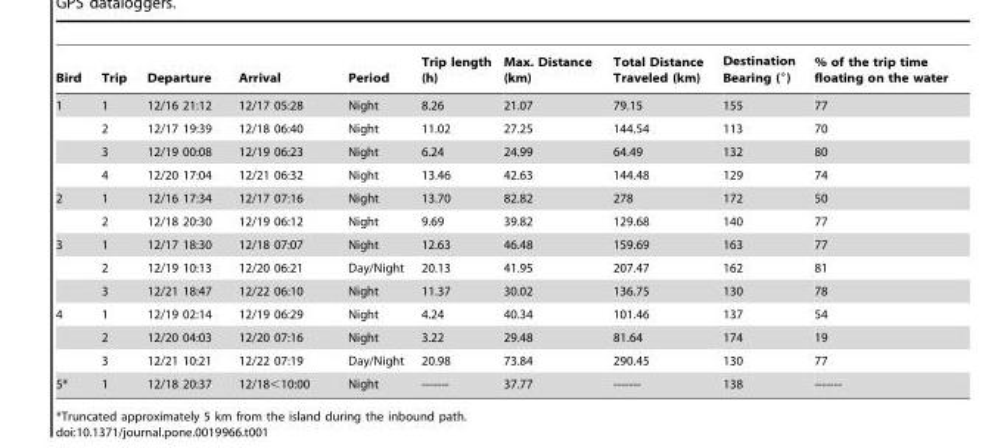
<table><thead><tr><td>Bird</td><td>Trip</td><td>Departure</td><td>Arrival</td><td>Period</td><td>Trip length (h)</td><td>Max. Distance (km)</td><td>Total Distance Traveled (km)</td><td>Destination Bearing (°)</td><td>% of the trip time floating on the water</td></tr></thead><tbody><tr><td rowspan="4">1</td><td>1</td><td>12/16 21:12</td><td>12/17 05:28</td><td>Night</td><td>8.26</td><td>21.07</td><td>79.15</td><td>155</td><td>77</td></tr><tr><td>2</td><td>12/17 19:39</td><td>12/18 06:40</td><td>Night</td><td>11.02</td><td>27.25</td><td>144.54</td><td>113</td><td>70</td></tr><tr><td>3</td><td>12/19 00:08</td><td>12/19 06:23</td><td>Night</td><td>6.24</td><td>24.99</td><td>64.49</td><td>132</td><td>80</td></tr><tr><td>4</td><td>12/20 17:04</td><td>12/21 06:32</td><td>Night</td><td>13.46</td><td>42.63</td><td>144.48</td><td>129</td><td>74</td></tr><tr><td rowspan="2">2</td><td>1</td><td>12/16 17:34</td><td>12/17 07:16</td><td>Night</td><td>13.70</td><td>82.82</td><td>278</td><td>172</td><td>50</td></tr><tr><td>2</td><td>12/18 20:30</td><td>12/19 06:12</td><td>Night</td><td>9.69</td><td>39.82</td><td>129.68</td><td>140</td><td>77</td></tr><tr><td rowspan="3">3</td><td>1</td><td>12/17 18:30</td><td>12/18 07:07</td><td>Night</td><td>12.63</td><td>46.48</td><td>159.69</td><td>163</td><td>77</td></tr><tr><td>2</td><td>12/19 10:13</td><td>12/20 06:21</td><td>Day/Night</td><td>20.13</td><td>41.95</td><td>207.47</td><td>162</td><td>81</td></tr><tr><td>3</td><td>12/21 18:47</td><td>12/22 06:10</td><td>Night</td><td>11.37</td><td>30.02</td><td>136.75</td><td>130</td><td>78</td></tr><tr><td rowspan="3">4</td><td>1</td><td>12/19 02:14</td><td>12/19 06:29</td><td>Night</td><td>4.24</td><td>40.34</td><td>101.46</td><td>137</td><td>54</td></tr><tr><td>2</td><td>12/20 04:03</td><td>12/20 07:16</td><td>Night</td><td>3.22</td><td>29.48</td><td>81.64</td><td>174</td><td>19</td></tr><tr><td>3</td><td>12/21 10:21</td><td>12/22 07:19</td><td>Day/Night</td><td>20.98</td><td>73.84</td><td>290.45</td><td>130</td><td>77</td></tr><tr><td>5*</td><td>1</td><td>12/18 20:37</td><td>12/18&lt;10:00</td><td>Night</td><td>-------</td><td>37.77</td><td>-------</td><td>138</td><td>-------</td></tr></tbody></table>